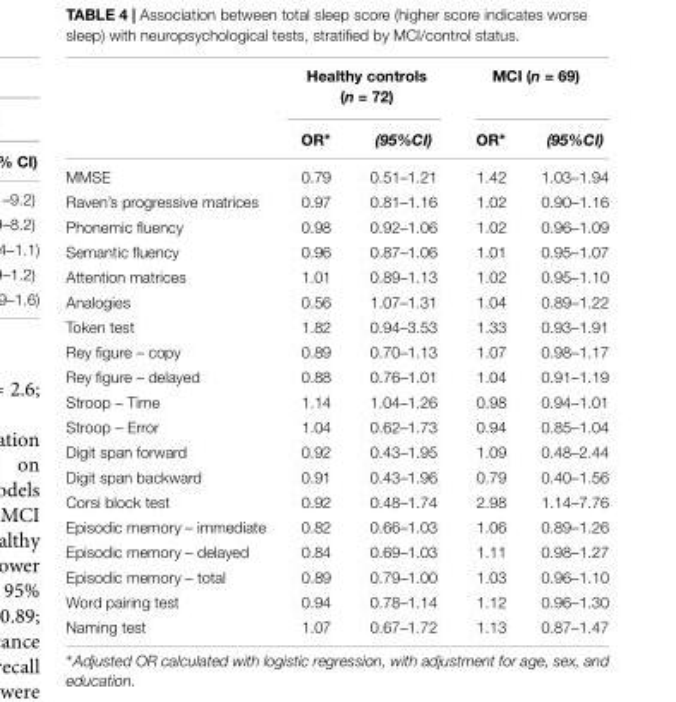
<table><thead><tr><td rowspan="2"></td><td colspan="2">Healthy controls (n = 72)</td><td colspan="2">MCI (n = 69)</td></tr><tr><td>OR∗</td><td>(95%CI)</td><td>OR∗</td><td>(95%CI)</td></tr></thead><tbody><tr><td>MMSE</td><td>0.79</td><td>0.51–1.21</td><td>1.42</td><td>1.03–1.94</td></tr><tr><td>Raven’s progressive matrices</td><td>0.97</td><td>0.81–1.16</td><td>1.02</td><td>0.90–1.16</td></tr><tr><td>Phonemic fluency</td><td>0.98</td><td>0.92–1.06</td><td>1.02</td><td>0.96–1.09</td></tr><tr><td>Semantic fluency</td><td>0.96</td><td>0.87–1.06</td><td>1.01</td><td>0.95–1.07</td></tr><tr><td>Attention matrices</td><td>1.01</td><td>0.89–1.13</td><td>1.02</td><td>0.95–1.10</td></tr><tr><td>Analogies</td><td>0.56</td><td>1.07–1.31</td><td>1.04</td><td>0.89–1.22</td></tr><tr><td>Token test</td><td>1.82</td><td>0.94–3.53</td><td>1.33</td><td>0.93–1.91</td></tr><tr><td>Rey figure – copy</td><td>0.89</td><td>0.70–1.13</td><td>1.07</td><td>0.98–1.17</td></tr><tr><td>Rey figure – delayed</td><td>0.88</td><td>0.76–1.01</td><td>1.04</td><td>0.91–1.19</td></tr><tr><td>Stroop – Time</td><td>1.14</td><td>1.04–1.26</td><td>0.98</td><td>0.94–1.01</td></tr><tr><td>Stroop – Error</td><td>1.04</td><td>0.62–1.73</td><td>0.94</td><td>0.85–1.04</td></tr><tr><td>Digit span forward</td><td>0.92</td><td>0.43–1.95</td><td>1.09</td><td>0.48–2.44</td></tr><tr><td>Digit span backward</td><td>0.91</td><td>0.43–1.96</td><td>0.79</td><td>0.40–1.56</td></tr><tr><td>Corsi block test</td><td>0.92</td><td>0.48–1.74</td><td>2.98</td><td>1.14–7.76</td></tr><tr><td>Episodic memory – immediate</td><td>0.82</td><td>0.66–1.03</td><td>1.06</td><td>0.89–1.26</td></tr><tr><td>Episodic memory – delayed</td><td>0.84</td><td>0.69–1.03</td><td>1.11</td><td>0.98–1.27</td></tr><tr><td>Episodic memory – total</td><td>0.89</td><td>0.79–1.00</td><td>1.03</td><td>0.96–1.10</td></tr><tr><td>Word pairing test</td><td>0.94</td><td>0.78–1.14</td><td>1.12</td><td>0.96–1.30</td></tr><tr><td>Naming test</td><td>1.07</td><td>0.67–1.72</td><td>1.13</td><td>0.87–1.47</td></tr></tbody></table>